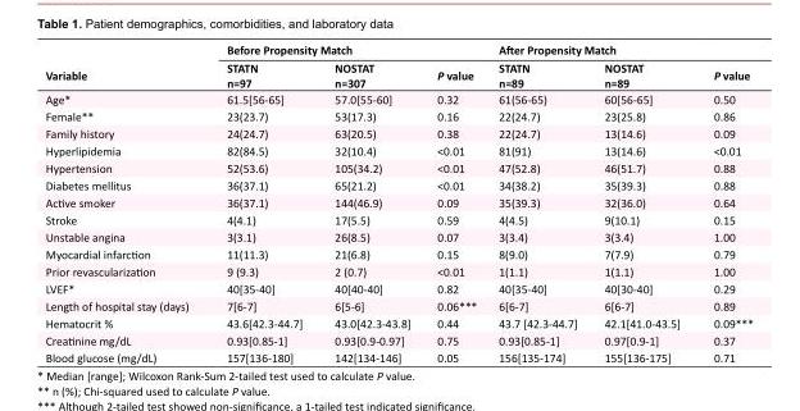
<table><tbody><tr><td rowspan="2">Variable</td><td colspan="3">Before Propensity Match</td><td colspan="3">After Propensity Match</td></tr><tr><td>STATN n=97</td><td>NOSTAT n=307</td><td>P value</td><td>STATN n=89</td><td>NOSTAT n=89</td><td>P value</td></tr><tr><td>Age*</td><td>61.5[56-65]</td><td>57.0[55-60]</td><td>0.32</td><td>61(56-65)</td><td>60[56-65]</td><td>0.50</td></tr><tr><td>Female**</td><td>23(23.7)</td><td>53(17.3)</td><td>0.16</td><td>22(24.7)</td><td>23(25.8)</td><td>0.86</td></tr><tr><td>Family history</td><td>24(24.7)</td><td>63(20.5)</td><td>0.38</td><td>22(24.7)</td><td>13(14.6)</td><td>0.09</td></tr><tr><td>Hyperlipidemia</td><td>82(84.5)</td><td>32(10.4)</td><td>&lt;0.01</td><td>81(91)</td><td>13(14.6)</td><td>&lt;0.01</td></tr><tr><td>Hypertension</td><td>52(53.6)</td><td>105(34.2)</td><td>&lt;0.01</td><td>47(52.8)</td><td>46(51.7)</td><td>0.88</td></tr><tr><td>Diabetes mellitus</td><td>36(37.1)</td><td>65(21.2)</td><td>&lt;0.01</td><td>34(38.2)</td><td>35(39.3)</td><td>0.88</td></tr><tr><td>Active smoker</td><td>36(37.1)</td><td>144(46.9)</td><td>0.09</td><td>35(39.3)</td><td>32(36.0)</td><td>0.64</td></tr><tr><td>Stroke</td><td>4(4.1)</td><td>17(5.5)</td><td>0.59</td><td>4(4.5)</td><td>9(10.1)</td><td>0.15</td></tr><tr><td>Unstable angina</td><td>3(3.1)</td><td>26(8.5)</td><td>0.07</td><td>3(3.4)</td><td>3(3.4)</td><td>1.00</td></tr><tr><td>Myocardial infarction</td><td>11(11.3)</td><td>21(6.8)</td><td>0.15</td><td>8(9.0)</td><td>7(7.9)</td><td>0.79</td></tr><tr><td>Prior revascularization</td><td>9 (9.3)</td><td>2 (0.7)</td><td>&lt;0.01</td><td>1(1.1)</td><td>1(1.1)</td><td>1.00</td></tr><tr><td>LVEF*</td><td>40[35-40]</td><td>40[40-40]</td><td>0.82</td><td>40[35-40]</td><td>40[30-40]</td><td>0.29</td></tr><tr><td>Length of hospital stay (days)</td><td>7[6-7]</td><td>6[5-6]</td><td>0.06***</td><td>6[6-7]</td><td>6[6-7]</td><td>0.89</td></tr><tr><td>Hematocrit %</td><td>43.6[42.3-44.7]</td><td>43.0[42.3-43.8]</td><td>0.44</td><td>43.7 [42.3-44.7]</td><td>42.1[41.0-43.5]</td><td>0.09***</td></tr><tr><td>Creatinine mg/dL</td><td>0.93[0.85-1]</td><td>0.93[0.9-0.97]</td><td>0.75</td><td>0.93[0.85-1]</td><td>0.97[0.9-1]</td><td>0.37</td></tr><tr><td>Blood glucose (mg/dL)</td><td>157[136-180]</td><td>142[134-146]</td><td>0.05</td><td>156[135-174]</td><td>155[136-175]</td><td>0.71</td></tr></tbody></table>